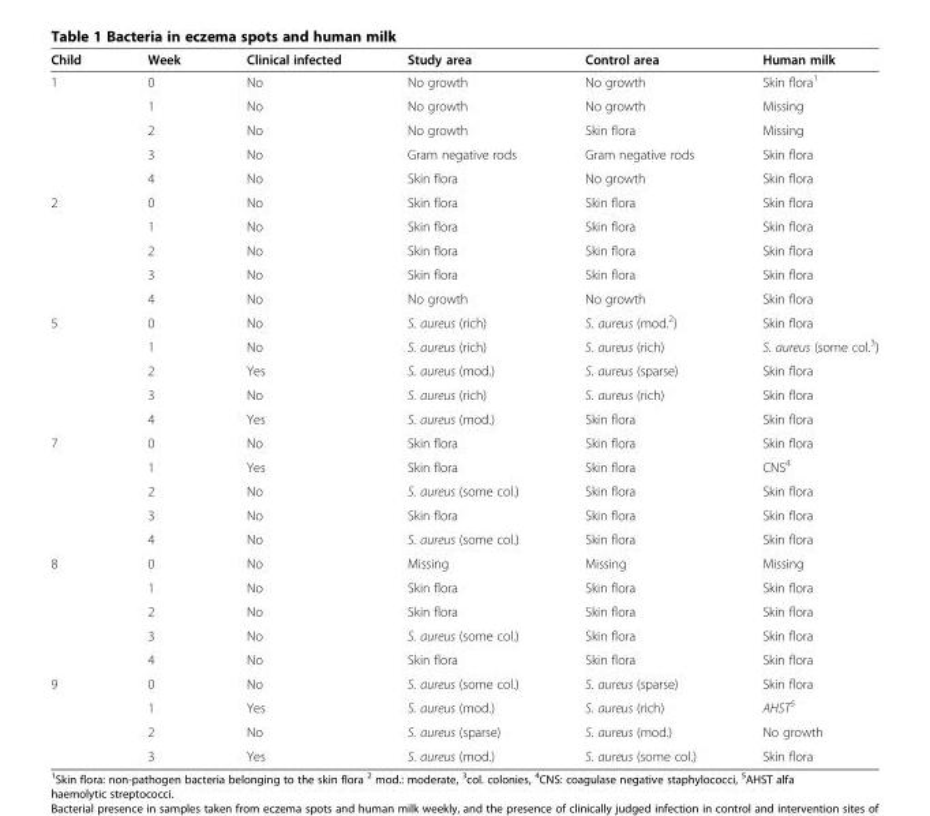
<table><thead><tr><td>Child</td><td>Week</td><td>Clinical infected</td><td>Study area</td><td>Control area</td><td>Human milk</td></tr></thead><tbody><tr><td rowspan="5">1</td><td>0</td><td>No</td><td>No growth</td><td>No growth</td><td>Skin flora<sup>1</sup></td></tr><tr><td>1</td><td>No</td><td>No growth</td><td>No growth</td><td>Missing</td></tr><tr><td>2</td><td>No</td><td>No growth</td><td>Skin flora</td><td>Missing</td></tr><tr><td>3</td><td>No</td><td>Gram negative rods</td><td>Gram negative rods</td><td>Skin flora</td></tr><tr><td>4</td><td>No</td><td>Skin flora</td><td>No growth</td><td>Skin flora</td></tr><tr><td rowspan="5">2</td><td>0</td><td>No</td><td>Skin flora</td><td>Skin flora</td><td>Skin flora</td></tr><tr><td>1</td><td>No</td><td>Skin flora</td><td>Skin flora</td><td>Skin flora</td></tr><tr><td>2</td><td>No</td><td>Skin flora</td><td>Skin flora</td><td>Skin flora</td></tr><tr><td>3</td><td>No</td><td>Skin flora</td><td>Skin flora</td><td>Skin flora</td></tr><tr><td>4</td><td>No</td><td>No growth</td><td>No growth</td><td>Skin flora</td></tr><tr><td rowspan="5">5</td><td>0</td><td>No</td><td>S. aureus (rich)</td><td>S. aureus (mod.<sup>2</sup>)</td><td>Skin flora</td></tr><tr><td>1</td><td>No</td><td>S. aureus (rich)</td><td>S. aureus (rich)</td><td>S. aureus (some col.<sup>3</sup>)</td></tr><tr><td>2</td><td>Yes</td><td>S. aureus (mod.)</td><td>S. aureus (sparse)</td><td>Skin flora</td></tr><tr><td>3</td><td>No</td><td>S. aureus (rich)</td><td>S. aureus (rich)</td><td>Skin flora</td></tr><tr><td>4</td><td>Yes</td><td>S. aureus (mod.)</td><td>Skin flora</td><td>Skin flora</td></tr><tr><td rowspan="5">7</td><td>0</td><td>No</td><td>Skin flora</td><td>Skin flora</td><td>Skin flora</td></tr><tr><td>1</td><td>Yes</td><td>Skin flora</td><td>Skin flora</td><td>CNS<sup>4</sup></td></tr><tr><td>2</td><td>No</td><td>S. aureus (some col.)</td><td>Skin flora</td><td>Skin flora</td></tr><tr><td>3</td><td>No</td><td>Skin flora</td><td>Skin flora</td><td>Skin flora</td></tr><tr><td>4</td><td>No</td><td>S. aureus (some col.)</td><td>Skin flora</td><td>Skin flora</td></tr><tr><td rowspan="5">8</td><td>0</td><td>No</td><td>Missing</td><td>Missing</td><td>Missing</td></tr><tr><td>1</td><td>No</td><td>Skin flora</td><td>Skin flora</td><td>Skin flora</td></tr><tr><td>2</td><td>No</td><td>Skin flora</td><td>Skin flora</td><td>Skin flora</td></tr><tr><td>3</td><td>No</td><td>S. aureus (some col.)</td><td>Skin flora</td><td>Skin flora</td></tr><tr><td>4</td><td>No</td><td>Skin flora</td><td>Skin flora</td><td>Skin flora</td></tr><tr><td rowspan="4">9</td><td>0</td><td>No</td><td>S. aureus (some col.)</td><td>S. aureus (sparse)</td><td>Skin flora</td></tr><tr><td>1</td><td>Yes</td><td>S. aureus (mod.)</td><td>S. aureus (rich)</td><td>AHST<sup>5</sup></td></tr><tr><td>2</td><td>No</td><td>S. aureus (sparse)</td><td>S. aureus (mod.)</td><td>No growth</td></tr><tr><td>3</td><td>Yes</td><td>S. aureus (mod.)</td><td>S. aureus (some col.)</td><td>Skin flora</td></tr></tbody></table>